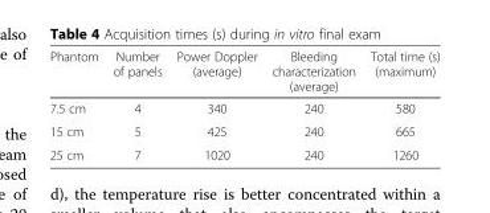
<table><thead><tr><td>Phantom</td><td>Number of panels</td><td>Power Doppler (average)</td><td>Bleeding characterization (average)</td><td>Total time (s) (maximum)</td></tr></thead><tbody><tr><td>7.5 cm</td><td>4</td><td>340</td><td>240</td><td>580</td></tr><tr><td>15 cm</td><td>5</td><td>425</td><td>240</td><td>665</td></tr><tr><td>25 cm</td><td>7</td><td>1020</td><td>240</td><td>1260</td></tr></tbody></table>